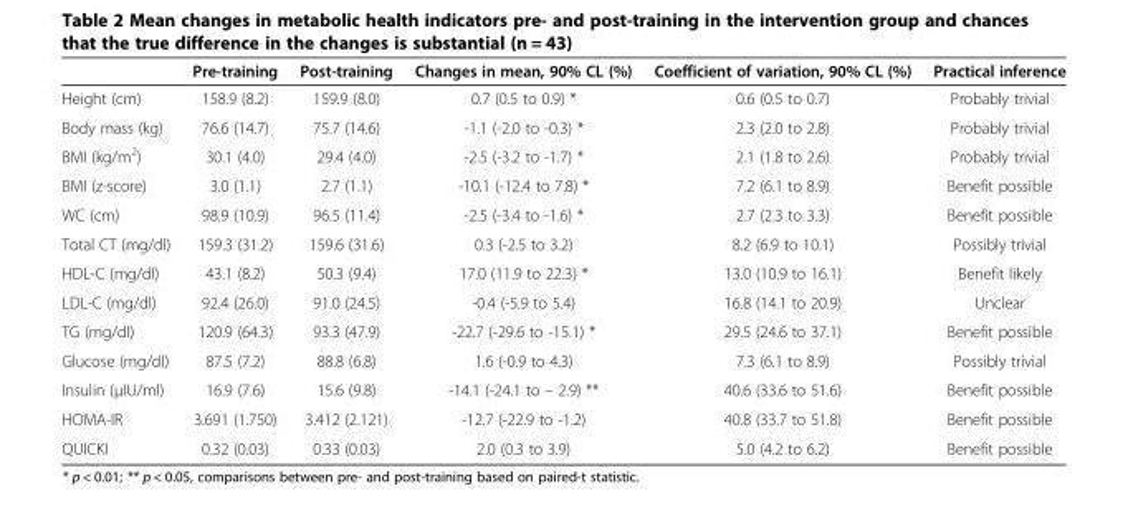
<table><thead><tr><td></td><td>Pre-training</td><td>Post-training</td><td>Changes in mean, 90% CL (%)</td><td>Coefficient of variation, 90% CL (%)</td><td>Practical inference</td></tr></thead><tbody><tr><td>Height (cm)</td><td>158.9 (8.2)</td><td>159.9 (8.0)</td><td>0.7 (0.5 to 0.9) *</td><td>0.6 (0.5 to 0.7)</td><td>Probably trivial</td></tr><tr><td>Body mass (kg)</td><td>76.6 (14.7)</td><td>75.7 (14.6)</td><td>-1.1 (-2.0 to -0.3) *</td><td>2.3 (2.0 to 2.8)</td><td>Probably trivial</td></tr><tr><td>BMI (kg/m<sup>2</sup>)</td><td>30.1 (4.0)</td><td>29.4 (4.0)</td><td>-2.5 (-3.2 to -1.7) *</td><td>2.1 (1.8 to 2.6)</td><td>Probably trivial</td></tr><tr><td>BMI (z-score)</td><td>3.0 (1.1)</td><td>2.7 (1.1)</td><td>-10.1 (-12.4 to 7.8) *</td><td>7.2 (6.1 to 8.9)</td><td>Benefit possible</td></tr><tr><td>WC (cm)</td><td>98.9 (10.9)</td><td>96.5 (11.4)</td><td>-2.5 (-3.4 to -1.6) *</td><td>2.7 (2.3 to 3.3)</td><td>Benefit possible</td></tr><tr><td>Total CT (mg/dl)</td><td>159.3 (31.2)</td><td>159.6 (31.6)</td><td>0.3 (-2.5 to 3.2)</td><td>8.2 (6.9 to 10.1)</td><td>Possibly trivial</td></tr><tr><td>HDL-C (mg/dl)</td><td>43.1 (8.2)</td><td>50.3 (9.4)</td><td>17.0 (11.9 to 22.3) *</td><td>13.0 (10.9 to 16.1)</td><td>Benefit likely</td></tr><tr><td>LDL-C (mg/dl)</td><td>92.4 (26.0)</td><td>91.0 (24.5)</td><td>-0.4 (-5.9 to 5.4)</td><td>16.8 (14.1 to 20.9)</td><td>Unclear</td></tr><tr><td>TG (mg/dl)</td><td>120.9 (64.3)</td><td>93.3 (47.9)</td><td>-22.7 (-29.6 to -15.1) *</td><td>29.5 (24.6 to 37.1)</td><td>Benefit possible</td></tr><tr><td>Glucose (mg/dl)</td><td>87.5 (7.2)</td><td>88.8 (6.8)</td><td>1.6 (-0.9 to 4.3)</td><td>7.3 (6.1 to 8.9)</td><td>Possibly trivial</td></tr><tr><td>Insulin (μIU/ml)</td><td>16.9 (7.6)</td><td>15.6 (9.8)</td><td>-14.1 (-24.1 to – 2.9) **</td><td>40.6 (33.6 to 51.6)</td><td>Benefit possible</td></tr><tr><td>HOMA-IR</td><td>3.691 (1.750)</td><td>3.412 (2.121)</td><td>-12.7 (-22.9 to -1.2)</td><td>40.8 (33.7 to 51.8)</td><td>Benefit possible</td></tr><tr><td>QUICKI</td><td>0.32 (0.03)</td><td>0.33 (0.03)</td><td>2.0 (0.3 to 3.9)</td><td>5.0 (4.2 to 6.2)</td><td>Benefit possible</td></tr></tbody></table>